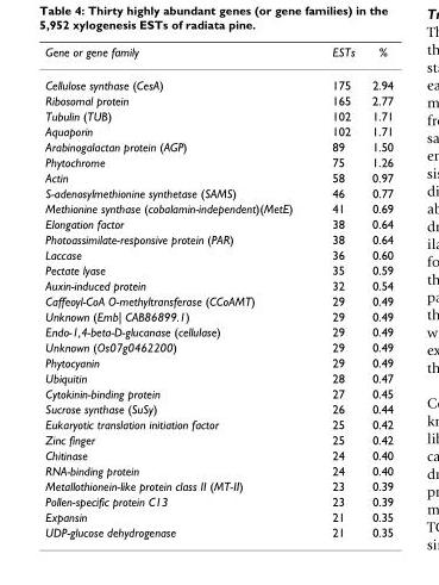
<table><thead><tr><td>Gene or gene family</td><td>ESTs</td><td>%</td></tr></thead><tbody><tr><td>Cellulose synthase (CesA)</td><td>175</td><td>2.94</td></tr><tr><td>Ribosomal protein</td><td>165</td><td>2.77</td></tr><tr><td>Tubulin (TUB)</td><td>102</td><td>1.71</td></tr><tr><td>Aquaporin</td><td>102</td><td>1.71</td></tr><tr><td>Arabinogalactan protein (AGP)</td><td>89</td><td>1.50</td></tr><tr><td>Phytochrome</td><td>75</td><td>1.26</td></tr><tr><td>Actin</td><td>58</td><td>0.97</td></tr><tr><td>S-adenosylmethionine synthetase (SAMS)</td><td>46</td><td>0.77</td></tr><tr><td>Methionine synthase (cobalamin-independent)(MetE)</td><td>41</td><td>0.69</td></tr><tr><td>Elongation factor</td><td>38</td><td>0.64</td></tr><tr><td>Photoassimilate-responsive protein (PAR)</td><td>38</td><td>0.64</td></tr><tr><td>Laccase</td><td>36</td><td>0.60</td></tr><tr><td>Pectate lyase</td><td>35</td><td>0.59</td></tr><tr><td>Auxin-induced protein</td><td>32</td><td>0.54</td></tr><tr><td>Caffeoyl-CoA O-methyltransferase (CCoAMT)</td><td>29</td><td>0.49</td></tr><tr><td>Unknown (Emb| CAB86899.1)</td><td>29</td><td>0.49</td></tr><tr><td>Endo-1,4-beta-D-glucanase (cellulase)</td><td>29</td><td>0.49</td></tr><tr><td>Unknown (Os07g0462200)</td><td>29</td><td>0.49</td></tr><tr><td>Phytocyanin</td><td>29</td><td>0.49</td></tr><tr><td>Ubiquitin</td><td>28</td><td>0.47</td></tr><tr><td>Cytokinin-binding protein</td><td>27</td><td>0.45</td></tr><tr><td>Sucrose synthase (SuSy)</td><td>26</td><td>0.44</td></tr><tr><td>Eukaryotic translation initiation factor</td><td>25</td><td>0.42</td></tr><tr><td>Zinc finger</td><td>25</td><td>0.42</td></tr><tr><td>Chitinase</td><td>24</td><td>0.40</td></tr><tr><td>RNA-binding protein</td><td>24</td><td>0.40</td></tr><tr><td>Metallothionein-like protein class II (MT-II)</td><td>23</td><td>0.39</td></tr><tr><td>Pollen-specific protein C13</td><td>23</td><td>0.39</td></tr><tr><td>Expansin</td><td>21</td><td>0.35</td></tr><tr><td>UDP-glucose dehydrogenase</td><td>21</td><td>0.35</td></tr></tbody></table>